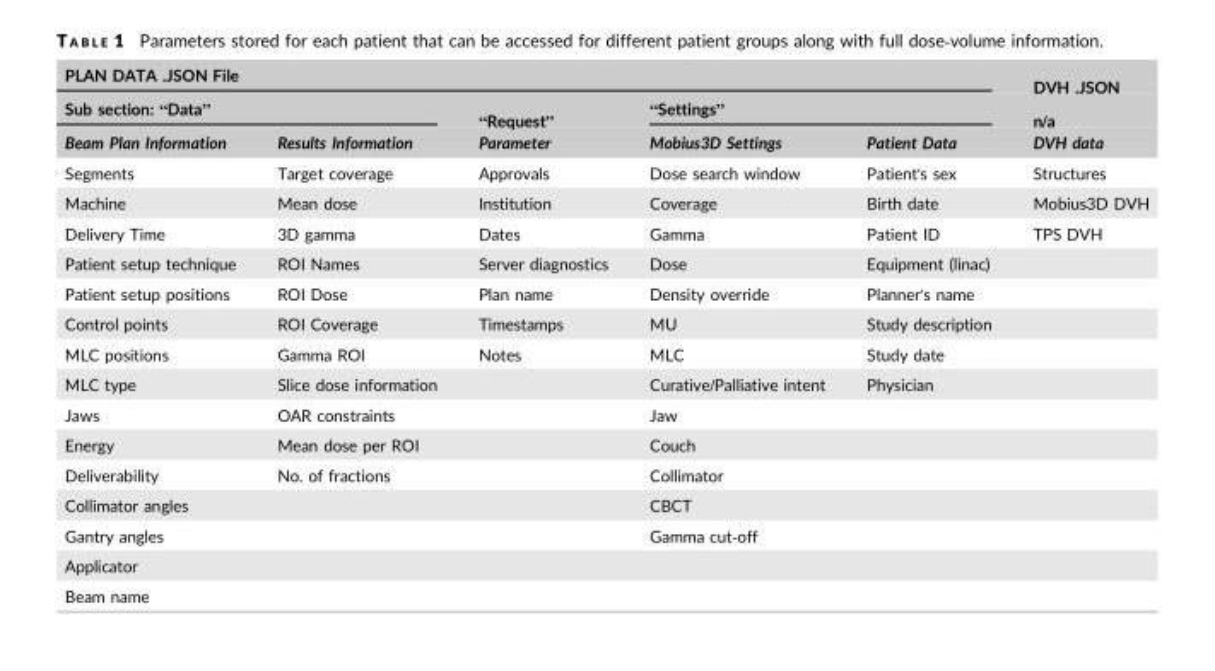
<table><thead><tr><td colspan="5">PLAN DATA .JSON File</td><td rowspan="3">DVH .JSON n/a DVH data</td></tr><tr><td colspan="2">Sub section: “Data”</td><td rowspan="2">“Request” Parameter</td><td colspan="2">“Settings”</td></tr><tr><td>Beam Plan Information</td><td>Results Information</td><td>Mobius3D Settings</td><td>Patient Data</td></tr></thead><tbody><tr><td>Segments</td><td>Target coverage</td><td>Approvals</td><td>Dose search window</td><td>Patient&#x27;s sex</td><td>Structures</td></tr><tr><td>Machine</td><td>Mean dose</td><td>Institution</td><td>Coverage</td><td>Birth date</td><td>Mobius3D DVH</td></tr><tr><td>Delivery Time</td><td>3D gamma</td><td>Dates</td><td>Gamma</td><td>Patient ID</td><td>TPS DVH</td></tr><tr><td>Patient setup technique</td><td>ROI Names</td><td>Server diagnostics</td><td>Dose</td><td>Equipment (linac)</td><td></td></tr><tr><td>Patient setup positions</td><td>ROI Dose</td><td>Plan name</td><td>Density override</td><td>Planner&#x27;s name</td><td></td></tr><tr><td>Control points</td><td>ROI Coverage</td><td>Timestamps</td><td>MU</td><td>Study description</td><td></td></tr><tr><td>MLC positions</td><td>Gamma ROI</td><td>Notes</td><td>MLC</td><td>Study date</td><td></td></tr><tr><td>MLC type</td><td>Slice dose information</td><td></td><td>Curative/Palliative intent</td><td>Physician</td><td></td></tr><tr><td>Jaws</td><td>OAR constraints</td><td></td><td>Jaw</td><td></td><td></td></tr><tr><td>Energy</td><td>Mean dose per ROI</td><td></td><td>Couch</td><td></td><td></td></tr><tr><td>Deliverability</td><td>No. of fractions</td><td></td><td>Collimator</td><td></td><td></td></tr><tr><td>Collimator angles</td><td></td><td></td><td>CBCT</td><td></td><td></td></tr><tr><td>Gantry angles</td><td></td><td></td><td>Gamma cut‐off</td><td></td><td></td></tr><tr><td colspan="6">Applicator</td></tr><tr><td>Beam name</td><td></td><td></td><td></td><td></td><td></td></tr></tbody></table>